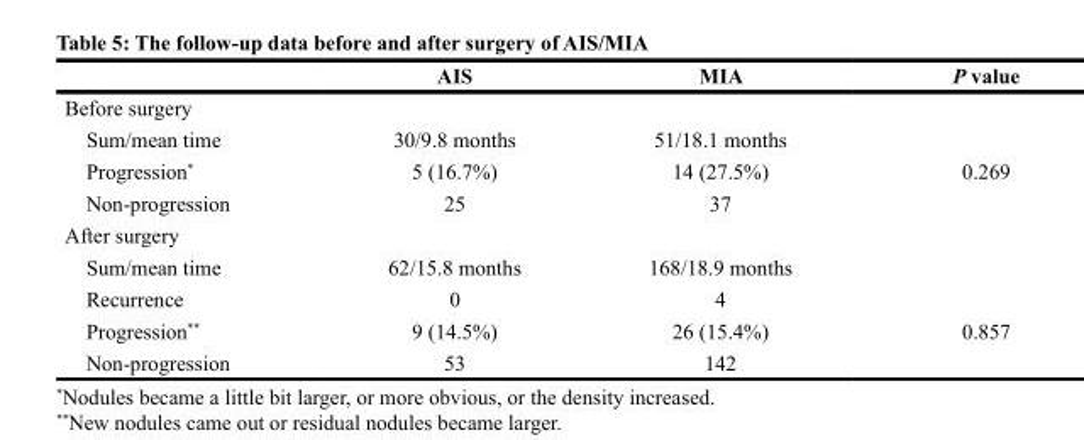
<table><thead><tr><td></td><td>AIS</td><td>MIA</td><td>P value</td></tr></thead><tbody><tr><td colspan="4">Before surgery</td></tr><tr><td>Sum/mean time</td><td>30/9.8 months</td><td>51/18.1 months</td><td></td></tr><tr><td>Progression*</td><td>5 (16.7%)</td><td>14 (27.5%)</td><td>0.269</td></tr><tr><td>Non-progression</td><td>25</td><td>37</td><td></td></tr><tr><td colspan="4">After surgery</td></tr><tr><td>Sum/mean time</td><td>62/15.8 months</td><td>168/18.9 months</td><td></td></tr><tr><td>Recurrence</td><td>0</td><td>4</td><td></td></tr><tr><td>Progression**</td><td>9 (14.5%)</td><td>26 (15.4%)</td><td>0.857</td></tr><tr><td>Non-progression</td><td>53</td><td>142</td><td></td></tr></tbody></table>